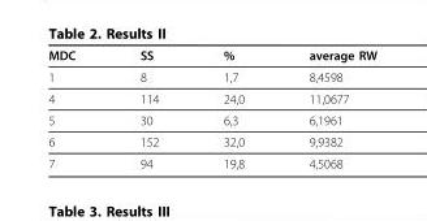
<table><thead><tr><td>MDC</td><td>SS</td><td>%</td><td>average RW</td></tr></thead><tbody><tr><td>1</td><td>8</td><td>1,7</td><td>8,4598</td></tr><tr><td>4</td><td>114</td><td>24,0</td><td>11,0677</td></tr><tr><td>5</td><td>30</td><td>6,3</td><td>6,1961</td></tr><tr><td>6</td><td>152</td><td>32,0</td><td>9,9382</td></tr><tr><td>7</td><td>94</td><td>19,8</td><td>4,5068</td></tr></tbody></table>